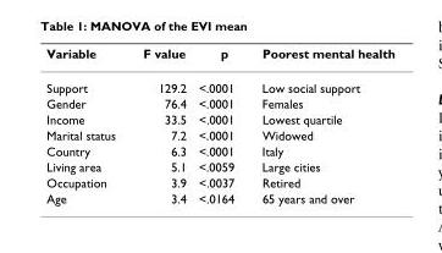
<table><thead><tr><td>Variable</td><td>F value</td><td>p</td><td>Poorest mental health</td></tr></thead><tbody><tr><td>Support</td><td>129.2</td><td>&lt;.0001</td><td>Low social support</td></tr><tr><td>Gender</td><td>76.4</td><td>&lt;.0001</td><td>Females</td></tr><tr><td>Income</td><td>33.5</td><td>&lt;.0001</td><td>Lowest quartile</td></tr><tr><td>Marital status</td><td>7.2</td><td>&lt;.0001</td><td>Widowed</td></tr><tr><td>Country</td><td>6.3</td><td>&lt;.0001</td><td>Italy</td></tr><tr><td>Living area</td><td>5.1</td><td>&lt;.0059</td><td>Large cities</td></tr><tr><td>Occupation</td><td>3.9</td><td>&lt;.0037</td><td>Retired</td></tr><tr><td>Age</td><td>3.4</td><td>&lt;.0164</td><td>65 years and over</td></tr></tbody></table>